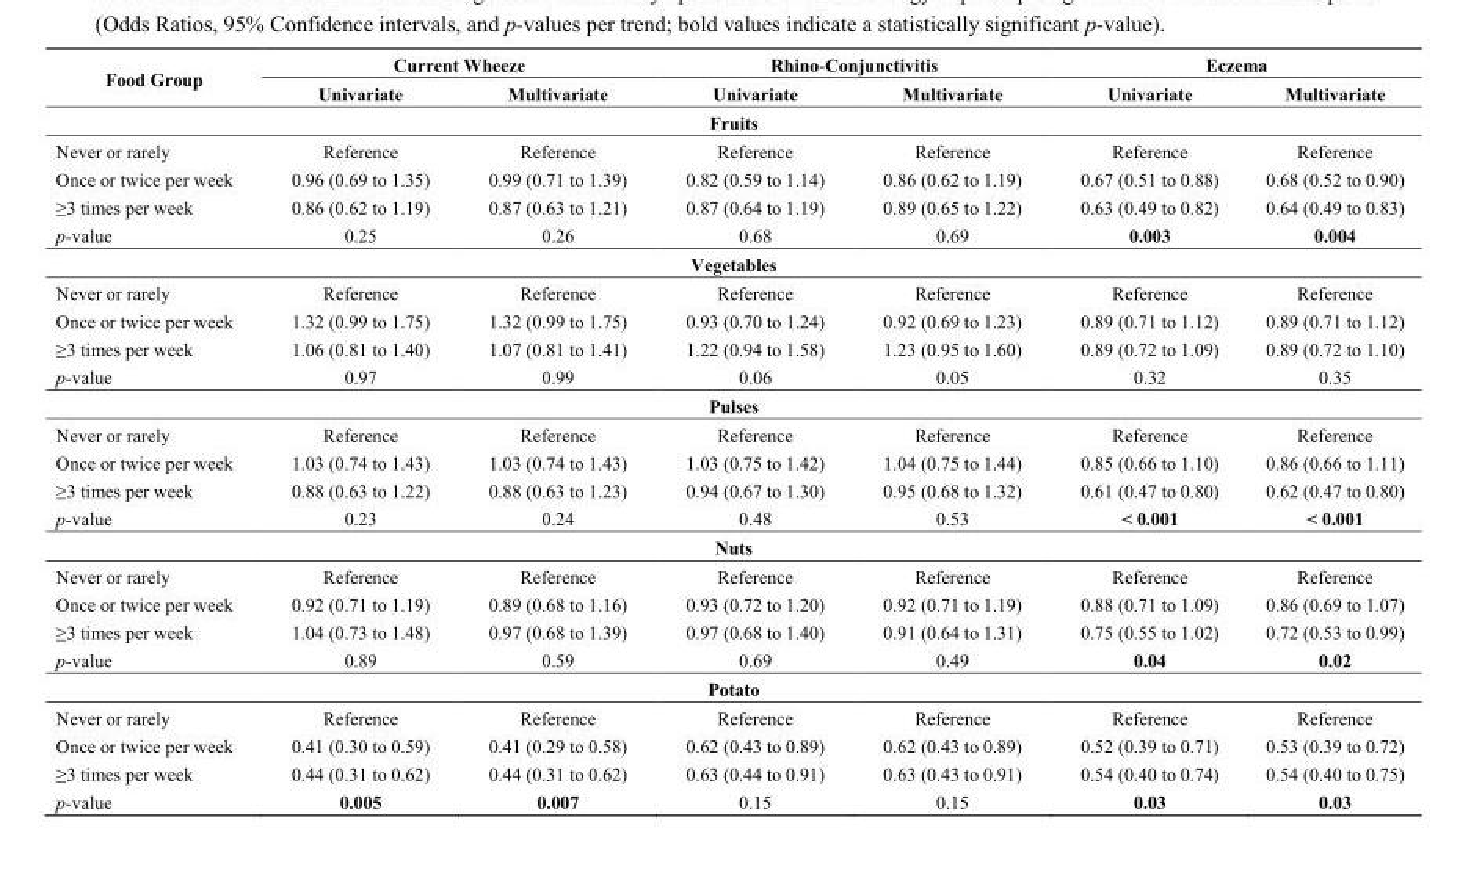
<table><thead><tr><td rowspan="2">Food Group</td><td colspan="2">Current Wheeze</td><td colspan="2">Rhino-Conjunctivitis</td><td colspan="2">Eczema</td></tr><tr><td>Univariate</td><td>Multivariate</td><td>Univariate</td><td>Multivariate</td><td>Univariate</td><td>Multivariate</td></tr></thead><tbody><tr><td colspan="7">Fruits</td></tr><tr><td>Never or rarely</td><td>Reference</td><td>Reference</td><td>Reference</td><td>Reference</td><td>Reference</td><td>Reference</td></tr><tr><td>Once or twice per week</td><td>0.96 (0.69 to 1.35)</td><td>0.99 (0.71 to 1.39)</td><td>0.82 (0.59 to 1.14)</td><td>0.86 (0.62 to 1.19)</td><td>0.67 (0.51 to 0.88)</td><td>0.68 (0.52 to 0.90)</td></tr><tr><td>≥3 times per week</td><td>0.86 (0.62 to 1.19)</td><td>0.87 (0.63 to 1.21)</td><td>0.87 (0.64 to 1.19)</td><td>0.89 (0.65 to 1.22)</td><td>0.63 (0.49 to 0.82)</td><td>0.64 (0.49 to 0.83)</td></tr><tr><td>p-value</td><td>0.25</td><td>0.26</td><td>0.68</td><td>0.69</td><td>0.003</td><td>0.004</td></tr><tr><td colspan="7">Vegetables</td></tr><tr><td>Never or rarely</td><td>Reference</td><td>Reference</td><td>Reference</td><td>Reference</td><td>Reference</td><td>Reference</td></tr><tr><td>Once or twice per week</td><td>1.32 (0.99 to 1.75)</td><td>1.32 (0.99 to 1.75)</td><td>0.93 (0.70 to 1.24)</td><td>0.92 (0.69 to 1.23)</td><td>0.89 (0.71 to 1.12)</td><td>0.89 (0.71 to 1.12)</td></tr><tr><td>≥3 times per week</td><td>1.06 (0.81 to 1.40)</td><td>1.07 (0.81 to 1.41)</td><td>1.22 (0.94 to 1.58)</td><td>1.23 (0.95 to 1.60)</td><td>0.89 (0.72 to 1.09)</td><td>0.89 (0.72 to 1.10)</td></tr><tr><td>p-value</td><td>0.97</td><td>0.99</td><td>0.06</td><td>0.05</td><td>0.32</td><td>0.35</td></tr><tr><td colspan="7">Pulses</td></tr><tr><td>Never or rarely</td><td>Reference</td><td>Reference</td><td>Reference</td><td>Reference</td><td>Reference</td><td>Reference</td></tr><tr><td>Once or twice per week</td><td>1.03 (0.74 to 1.43)</td><td>1.03 (0.74 to 1.43)</td><td>1.03 (0.75 to 1.42)</td><td>1.04 (0.75 to 1.44)</td><td>0.85 (0.66 to 1.10)</td><td>0.86 (0.66 to 1.11)</td></tr><tr><td>≥3 times per week</td><td>0.88 (0.63 to 1.22)</td><td>0.88 (0.63 to 1.23)</td><td>0.94 (0.67 to 1.30)</td><td>0.95 (0.68 to 1.32)</td><td>0.61 (0.47 to 0.80)</td><td>0.62 (0.47 to 0.80)</td></tr><tr><td>p-value</td><td>0.23</td><td>0.24</td><td>0.48</td><td>0.53</td><td>&lt; 0.001</td><td>&lt; 0.001</td></tr><tr><td colspan="7">Nuts</td></tr><tr><td>Never or rarely</td><td>Reference</td><td>Reference</td><td>Reference</td><td>Reference</td><td>Reference</td><td>Reference</td></tr><tr><td>Once or twice per week</td><td>0.92 (0.71 to 1.19)</td><td>0.89 (0.68 to 1.16)</td><td>0.93 (0.72 to 1.20)</td><td>0.92 (0.71 to 1.19)</td><td>0.88 (0.71 to 1.09)</td><td>0.86 (0.69 to 1.07)</td></tr><tr><td>≥3 times per week</td><td>1.04 (0.73 to 1.48)</td><td>0.97 (0.68 to 1.39)</td><td>0.97 (0.68 to 1.40)</td><td>0.91 (0.64 to 1.31)</td><td>0.75 (0.55 to 1.02)</td><td>0.72 (0.53 to 0.99)</td></tr><tr><td>p-value</td><td>0.89</td><td>0.59</td><td>0.69</td><td>0.49</td><td>0.04</td><td>0.02</td></tr><tr><td colspan="7">Potato</td></tr><tr><td>Never or rarely</td><td>Reference</td><td>Reference</td><td>Reference</td><td>Reference</td><td>Reference</td><td>Reference</td></tr><tr><td>Once or twice per week</td><td>0.41 (0.30 to 0.59)</td><td>0.41 (0.29 to 0.58)</td><td>0.62 (0.43 to 0.89)</td><td>0.62 (0.43 to 0.89)</td><td>0.52 (0.39 to 0.71)</td><td>0.53 (0.39 to 0.72)</td></tr><tr><td>≥3 times per week</td><td>0.44 (0.31 to 0.62)</td><td>0.44 (0.31 to 0.62)</td><td>0.63 (0.44 to 0.91)</td><td>0.63 (0.43 to 0.91)</td><td>0.54 (0.40 to 0.74)</td><td>0.54 (0.40 to 0.75)</td></tr><tr><td>p-value</td><td>0.005</td><td>0.007</td><td>0.15</td><td>0.15</td><td>0.03</td><td>0.03</td></tr></tbody></table>